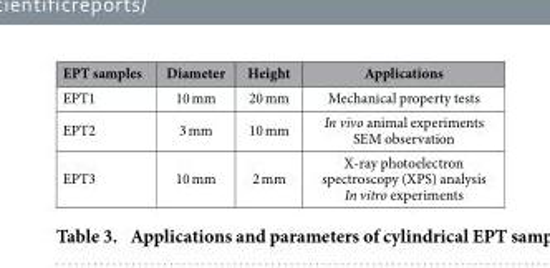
<table><thead><tr><td>EPT samples</td><td>Diameter</td><td>Height</td><td>Applications</td></tr></thead><tbody><tr><td>EPT1</td><td>10 mm</td><td>20 mm</td><td>Mechanical property tests</td></tr><tr><td>EPT2</td><td>3 mm</td><td>10 mm</td><td>In vivo animal experiments SEM observation</td></tr><tr><td>EPT3</td><td>10 mm</td><td>2 mm</td><td>X-ray photoelectron spectroscopy (XPS) analysis In vitro experiments</td></tr></tbody></table>